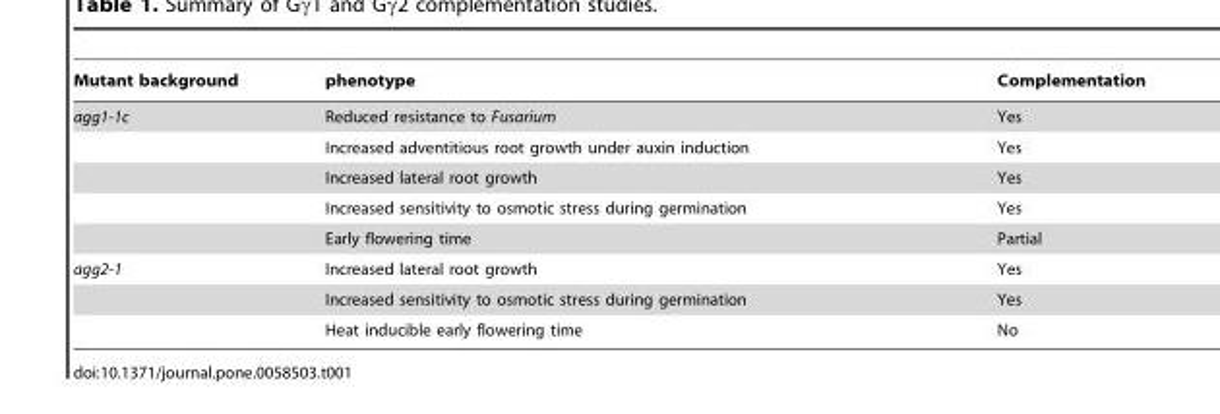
<table><thead><tr><td>Mutant background</td><td>phenotype</td><td>Complementation</td></tr></thead><tbody><tr><td rowspan="5">agg1-1c</td><td>Reduced resistance to Fusarium</td><td>Yes</td></tr><tr><td>Increased adventitious root growth under auxin induction</td><td>Yes</td></tr><tr><td>Increased lateral root growth</td><td>Yes</td></tr><tr><td>Increased sensitivity to osmotic stress during germination</td><td>Yes</td></tr><tr><td>Early flowering time</td><td>Partial</td></tr><tr><td rowspan="3">agg2-1</td><td>Increased lateral root growth</td><td>Yes</td></tr><tr><td>Increased sensitivity to osmotic stress during germination</td><td>Yes</td></tr><tr><td>Heat inducible early flowering time</td><td>No</td></tr></tbody></table>